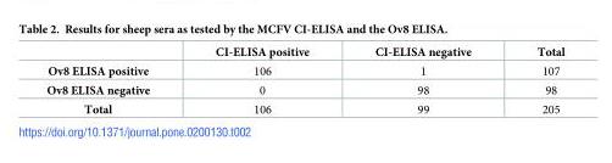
<table><thead><tr><td></td><td>CI-ELISA positive</td><td>CI-ELISA negative</td><td>Total</td></tr></thead><tbody><tr><td>Ov8 ELISA positive</td><td>106</td><td>1</td><td>107</td></tr><tr><td>Ov8 ELISA negative</td><td>0</td><td>98</td><td>98</td></tr><tr><td>Total</td><td>106</td><td>99</td><td>205</td></tr></tbody></table>